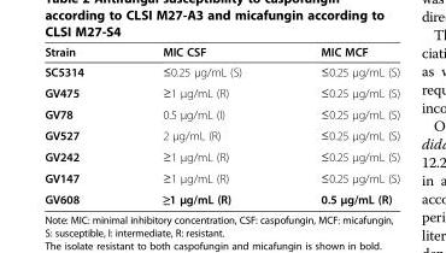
<table><thead><tr><td>Strain</td><td>MIC CSF</td><td>MIC MCF</td></tr></thead><tbody><tr><td>SC5314</td><td>≤0.25 μg/mL (S)</td><td>≤0.25 μg/mL (S)</td></tr><tr><td>GV475</td><td>≥1 μg/mL (R)</td><td>≤0.25 μg/mL (S)</td></tr><tr><td>GV78</td><td>0.5 μg/mL (I)</td><td>≤0.25 μg/mL (S)</td></tr><tr><td>GV527</td><td>2 μg/mL (R)</td><td>≤0.25 μg/mL (S)</td></tr><tr><td>GV242</td><td>≥1 μg/mL (R)</td><td>≤0.25 μg/mL (S)</td></tr><tr><td>GV147</td><td>≥1 μg/mL (R)</td><td>≤0.25 μg/mL (S)</td></tr><tr><td>GV608</td><td>≥1 μg/mL (R)</td><td>0.5 μg/mL (R)</td></tr></tbody></table>